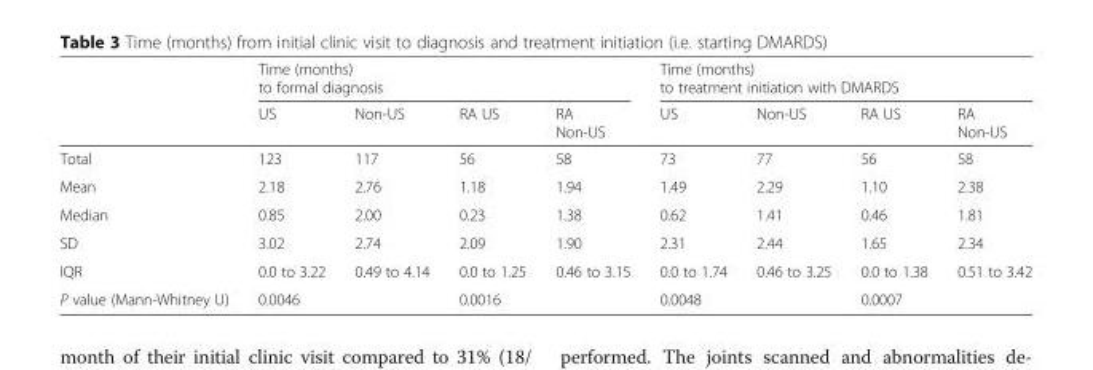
<table><thead><tr><td rowspan="2"></td><td colspan="4">Time (months) to formal diagnosis</td><td colspan="4">Time (months) to treatment initiation with DMARDS</td></tr><tr><td>US</td><td>Non-US</td><td>RA US</td><td>RA Non-US</td><td>US</td><td>Non-US</td><td>RA US</td><td>RA Non-US</td></tr></thead><tbody><tr><td>Total</td><td>123</td><td>117</td><td>56</td><td>58</td><td>73</td><td>77</td><td>56</td><td>58</td></tr><tr><td>Mean</td><td>2.18</td><td>2.76</td><td>1.18</td><td>1.94</td><td>1.49</td><td>2.29</td><td>1.10</td><td>2.38</td></tr><tr><td>Median</td><td>0.85</td><td>2.00</td><td>0.23</td><td>1.38</td><td>0.62</td><td>1.41</td><td>0.46</td><td>1.81</td></tr><tr><td>SD</td><td>3.02</td><td>2.74</td><td>2.09</td><td>1.90</td><td>2.31</td><td>2.44</td><td>1.65</td><td>2.34</td></tr><tr><td>IQR</td><td>0.0 to 3.22</td><td>0.49 to 4.14</td><td>0.0 to 1.25</td><td>0.46 to 3.15</td><td>0.0 to 1.74</td><td>0.46 to 3.25</td><td>0.0 to 1.38</td><td>0.51 to 3.42</td></tr><tr><td>P value (Mann-Whitney U)</td><td colspan="2">0.0046</td><td colspan="2">0.0016</td><td colspan="2">0.0048</td><td colspan="2">0.0007</td></tr></tbody></table>